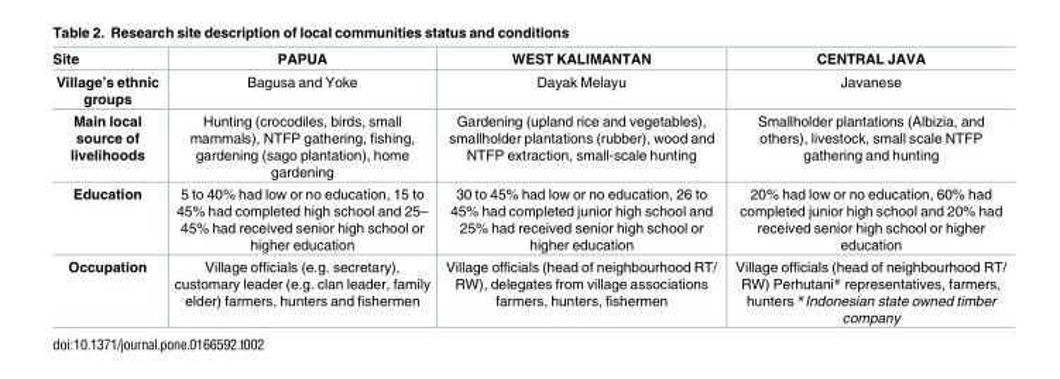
<table><thead><tr><td>Site</td><td>PAPUA</td><td>WEST KALIMANTAN</td><td>CENTRAL JAVA</td></tr></thead><tbody><tr><td>Village’s ethnic groups</td><td>Bagusa and Yoke</td><td>Dayak Melayu</td><td>Javanese</td></tr><tr><td>Main local source of livelihoods</td><td>Hunting (crocodiles, birds, small mammals), NTFP gathering, fishing, gardening (sago plantation), home gardening</td><td>Gardening (upland rice and vegetables), smallholder plantations (rubber), wood and NTFP extraction, small-scale hunting</td><td>Smallholder plantations (Albizia, and others), livestock, small scale NTFP gathering and hunting</td></tr><tr><td>Education</td><td>5 to 40% had low or no education, 15 to 45% had completed high school and 25– 45% had received senior high school or higher education</td><td>30 to 45% had low or no education, 26 to 45% had completed junior high school and 25% had received senior high school or higher education</td><td>20% had low or no education, 60% had completed junior high school and 20% had received senior high school or higher education</td></tr><tr><td>Occupation</td><td>Village officials (e.g. secretary), customary leader (e.g. clan leader, family elder) farmers, hunters and fishermen</td><td>Village officials (head of neighbourhood RT/ RW), delegates from village associations farmers, hunters, fishermen</td><td>Village officials (head of neighbourhood RT/ RW) Perhutani* representatives, farmers, hunters *Indonesian state owned timber company</td></tr></tbody></table>